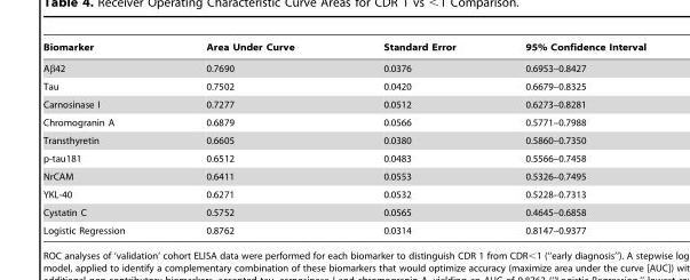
<table><thead><tr><td>Biomarker</td><td>Area Under Curve</td><td>Standard Error</td><td>95% Confidence Interval</td></tr></thead><tbody><tr><td>Aβ42</td><td>0.7690</td><td>0.0376</td><td>0.6953–0.8427</td></tr><tr><td>Tau</td><td>0.7502</td><td>0.0420</td><td>0.6679–0.8325</td></tr><tr><td>Carnosinase I</td><td>0.7277</td><td>0.0512</td><td>0.6273–0.8281</td></tr><tr><td>Chromogranin A</td><td>0.6879</td><td>0.0566</td><td>0.5771–0.7988</td></tr><tr><td>Transthyretin</td><td>0.6605</td><td>0.0380</td><td>0.5860–0.7350</td></tr><tr><td>p-tau181</td><td>0.6512</td><td>0.0483</td><td>0.5566–0.7458</td></tr><tr><td>NrCAM</td><td>0.6411</td><td>0.0553</td><td>0.5326–0.7495</td></tr><tr><td>YKL-40</td><td>0.6271</td><td>0.0532</td><td>0.5228–0.7313</td></tr><tr><td>Cystatin C</td><td>0.5752</td><td>0.0565</td><td>0.4645–0.6858</td></tr><tr><td>Logistic Regression</td><td>0.8762</td><td>0.0314</td><td>0.8147–0.9377</td></tr></tbody></table>